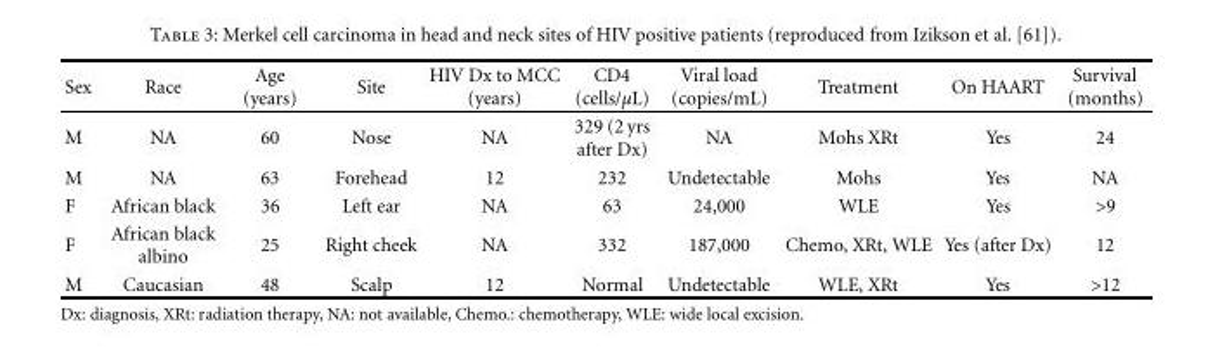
<table><thead><tr><td>Sex</td><td>Race</td><td>Age (years)</td><td>Site</td><td>HIV Dx to MCC (years)</td><td>CD4 (cells/μL)</td><td>Viral load (copies/mL)</td><td>Treatment</td><td>On HAART</td><td>Survival (months)</td></tr></thead><tbody><tr><td>M</td><td>NA</td><td>60</td><td>Nose</td><td>NA</td><td>329 (2 yrs after Dx)</td><td>NA</td><td>Mohs XRt</td><td>Yes</td><td>24</td></tr><tr><td>M</td><td>NA</td><td>63</td><td>Forehead</td><td>12</td><td>232</td><td>Undetectable</td><td>Mohs</td><td>Yes</td><td>NA</td></tr><tr><td>F</td><td>African black</td><td>36</td><td>Left ear</td><td>NA</td><td>63</td><td>24,000</td><td>WLE</td><td>Yes</td><td>&gt;9</td></tr><tr><td>F</td><td>African black albino</td><td>25</td><td>Right cheek</td><td>NA</td><td>332</td><td>187,000</td><td>Chemo, XRt, WLE</td><td>Yes (after Dx)</td><td>12</td></tr><tr><td>M</td><td>Caucasian</td><td>48</td><td>Scalp</td><td>12</td><td>Normal</td><td>Undetectable</td><td>WLE, XRt</td><td>Yes</td><td>&gt;12</td></tr></tbody></table>